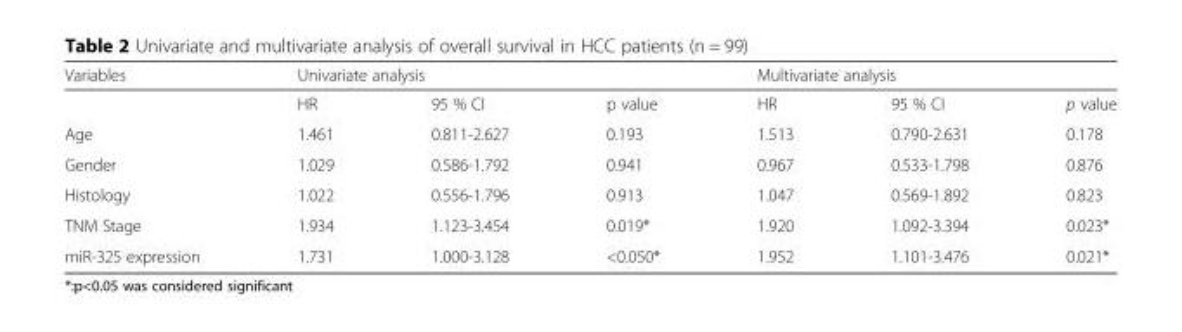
<table><thead><tr><td rowspan="2">Variables</td><td colspan="3">Univariate analysis</td><td colspan="3">Multivariate analysis</td></tr><tr><td>HR</td><td>95 % CI</td><td>p value</td><td>HR</td><td>95 % CI</td><td>p value</td></tr></thead><tbody><tr><td>Age</td><td>1.461</td><td>0.811-2.627</td><td>0.193</td><td>1.513</td><td>0.790-2.631</td><td>0.178</td></tr><tr><td>Gender</td><td>1.029</td><td>0.586-1.792</td><td>0.941</td><td>0.967</td><td>0.533-1.798</td><td>0.876</td></tr><tr><td>Histology</td><td>1.022</td><td>0.556-1.796</td><td>0.913</td><td>1.047</td><td>0.569-1.892</td><td>0.823</td></tr><tr><td>TNM Stage</td><td>1.934</td><td>1.123-3.454</td><td>0.019*</td><td>1.920</td><td>1.092-3.394</td><td>0.023*</td></tr><tr><td>miR-325 expression</td><td>1.731</td><td>1.000-3.128</td><td>&lt;0.050*</td><td>1.952</td><td>1.101-3.476</td><td>0.021*</td></tr></tbody></table>